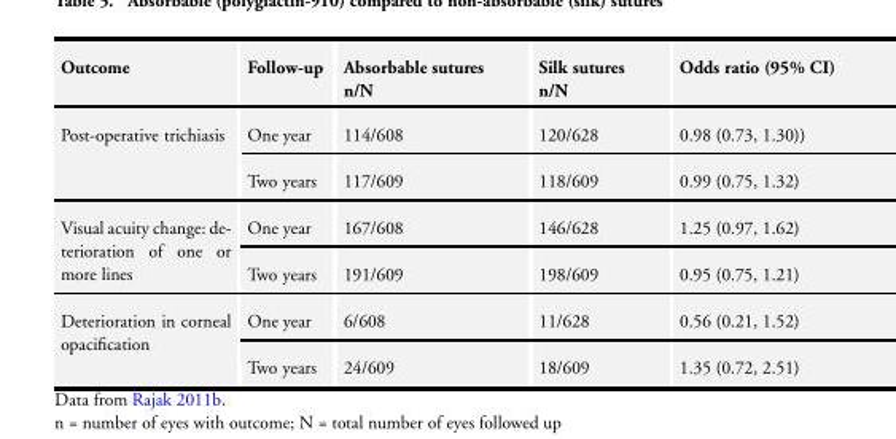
<table><tbody><tr><td>Outcome</td><td>Follow-up</td><td>Absorbable sutures n/N</td><td>Silk sutures n/N</td><td>Odds ratio (95% CI)</td></tr><tr><td rowspan="2">Post-operative trichiasis</td><td>One year</td><td>114/608</td><td>120/628</td><td>0.98 (0.73, 1.30))</td></tr><tr><td>Two years</td><td>117/609</td><td>118/609</td><td>0.99 (0.75, 1.32)</td></tr><tr><td rowspan="2">Visual acuity change: de- terioration of one or more lines</td><td>One year</td><td>167/608</td><td>146/628</td><td>1.25 (0.97, 1.62)</td></tr><tr><td>Two years</td><td>191/609</td><td>198/609</td><td>0.95 (0.75, 1.21)</td></tr><tr><td rowspan="2">Deterioration in corneal opacification</td><td>One year</td><td>6/608</td><td>11/628</td><td>0.56 (0.21, 1.52)</td></tr><tr><td>Two years</td><td>24/609</td><td>18/609</td><td>1.35 (0.72, 2.51)</td></tr></tbody></table>